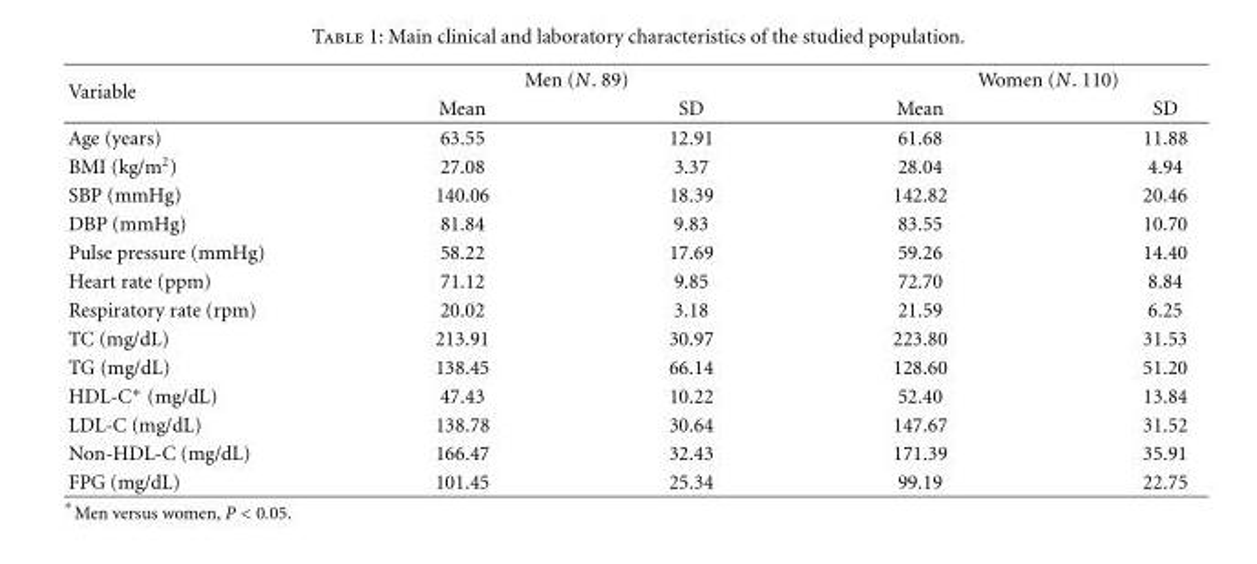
<table><thead><tr><td rowspan="2">Variable</td><td colspan="2">Men (N. 89)</td><td colspan="2">Women (N. 110)</td></tr><tr><td>Mean</td><td>SD</td><td>Mean</td><td>SD</td></tr></thead><tbody><tr><td>Age (years)</td><td>63.55</td><td>12.91</td><td>61.68</td><td>11.88</td></tr><tr><td>BMI (kg/m<sup>2</sup>)</td><td>27.08</td><td>3.37</td><td>28.04</td><td>4.94</td></tr><tr><td>SBP (mmHg)</td><td>140.06</td><td>18.39</td><td>142.82</td><td>20.46</td></tr><tr><td>DBP (mmHg)</td><td>81.84</td><td>9.83</td><td>83.55</td><td>10.70</td></tr><tr><td>Pulse pressure (mmHg)</td><td>58.22</td><td>17.69</td><td>59.26</td><td>14.40</td></tr><tr><td>Heart rate (ppm)</td><td>71.12</td><td>9.85</td><td>72.70</td><td>8.84</td></tr><tr><td>Respiratory rate (rpm)</td><td>20.02</td><td>3.18</td><td>21.59</td><td>6.25</td></tr><tr><td>TC (mg/dL)</td><td>213.91</td><td>30.97</td><td>223.80</td><td>31.53</td></tr><tr><td>TG (mg/dL)</td><td>138.45</td><td>66.14</td><td>128.60</td><td>51.20</td></tr><tr><td>HDL-C∗ (mg/dL)</td><td>47.43</td><td>10.22</td><td>52.40</td><td>13.84</td></tr><tr><td>LDL-C (mg/dL)</td><td>138.78</td><td>30.64</td><td>147.67</td><td>31.52</td></tr><tr><td>Non-HDL-C (mg/dL)</td><td>166.47</td><td>32.43</td><td>171.39</td><td>35.91</td></tr><tr><td>FPG (mg/dL)</td><td>101.45</td><td>25.34</td><td>99.19</td><td>22.75</td></tr></tbody></table>